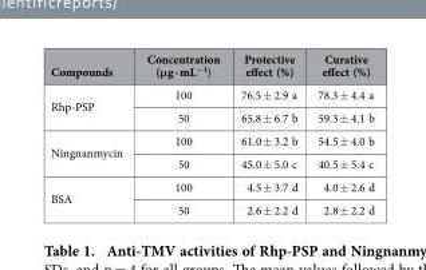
<table><thead><tr><td>Compounds</td><td>Concentration (μg · mL<sup>−1</sup>)</td><td>Protective effect (%)</td><td>Curative effect (%)</td></tr></thead><tbody><tr><td rowspan="2">Rhp-PSP</td><td>100</td><td>76.5 ± 2.9 a</td><td>78.3 ± 4.4 a</td></tr><tr><td>50</td><td>65.8 ± 6.7 b</td><td>59.3 ± 4.1 b</td></tr><tr><td rowspan="2">Ningnanmycin</td><td>100</td><td>61.0 ± 3.2 b</td><td>54.5 ± 4.0 b</td></tr><tr><td>50</td><td>45.0 ± 5.0 c</td><td>40.5 ± 5.4 c</td></tr><tr><td rowspan="2">BSA</td><td>100</td><td>4.5 ± 3.7 d</td><td>4.0 ± 2.6 d</td></tr><tr><td>50</td><td>2.6 ± 2.2 d</td><td>2.8 ± 2.2 d</td></tr></tbody></table>